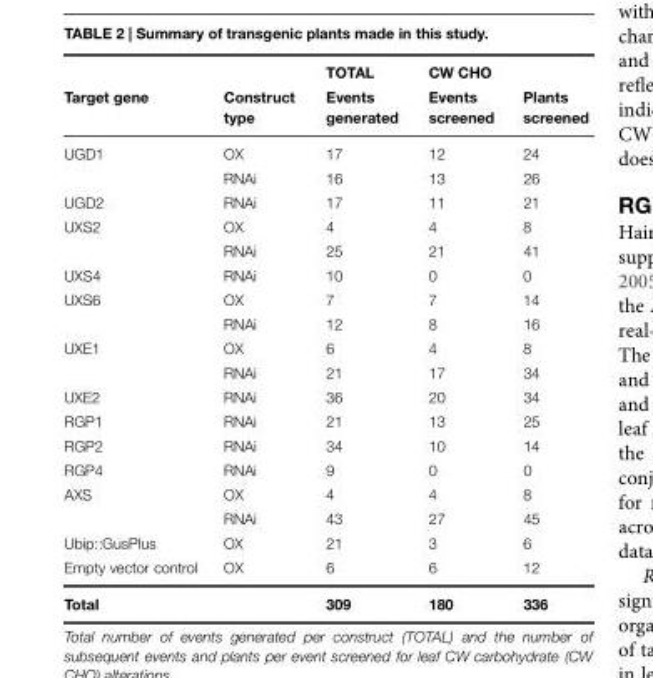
<table><thead><tr><td rowspan="2">Target gene</td><td rowspan="2">Construct type</td><td rowspan="2">TOTAL Events generated</td><td rowspan="2">CW CHO Events screened</td><td rowspan="2">Plants screened</td></tr><tr></tr></thead><tbody><tr><td rowspan="2">UGD1</td><td>OX</td><td>17</td><td>12</td><td>24</td></tr><tr><td>RNAi</td><td>16</td><td>13</td><td>26</td></tr><tr><td>UGD2</td><td>RNAi</td><td>17</td><td>11</td><td>21</td></tr><tr><td rowspan="2">UXS2</td><td>OX</td><td>4</td><td>4</td><td>8</td></tr><tr><td>RNAi</td><td>25</td><td>21</td><td>41</td></tr><tr><td>UXS4</td><td>RNAi</td><td>10</td><td>0</td><td>0</td></tr><tr><td rowspan="2">UXS6</td><td>OX</td><td>7</td><td>7</td><td>14</td></tr><tr><td>RNAi</td><td>12</td><td>8</td><td>16</td></tr><tr><td rowspan="2">UXE1</td><td>OX</td><td>6</td><td>4</td><td>8</td></tr><tr><td>RNAi</td><td>21</td><td>17</td><td>34</td></tr><tr><td>UXE2</td><td>RNAi</td><td>36</td><td>20</td><td>34</td></tr><tr><td>RGP1</td><td>RNAi</td><td>21</td><td>13</td><td>25</td></tr><tr><td>RGP2</td><td>RNAi</td><td>34</td><td>10</td><td>14</td></tr><tr><td>RGP4</td><td>RNAi</td><td>9</td><td>0</td><td>0</td></tr><tr><td rowspan="2">AXS</td><td>OX</td><td>4</td><td>4</td><td>8</td></tr><tr><td>RNAi</td><td>43</td><td>27</td><td>45</td></tr><tr><td>Ubip::GusPlus</td><td>OX</td><td>21</td><td>3</td><td>6</td></tr><tr><td>Empty vector control</td><td>OX</td><td>6</td><td>6</td><td>12</td></tr><tr><td>Total</td><td></td><td>309</td><td>180</td><td>336</td></tr></tbody></table>